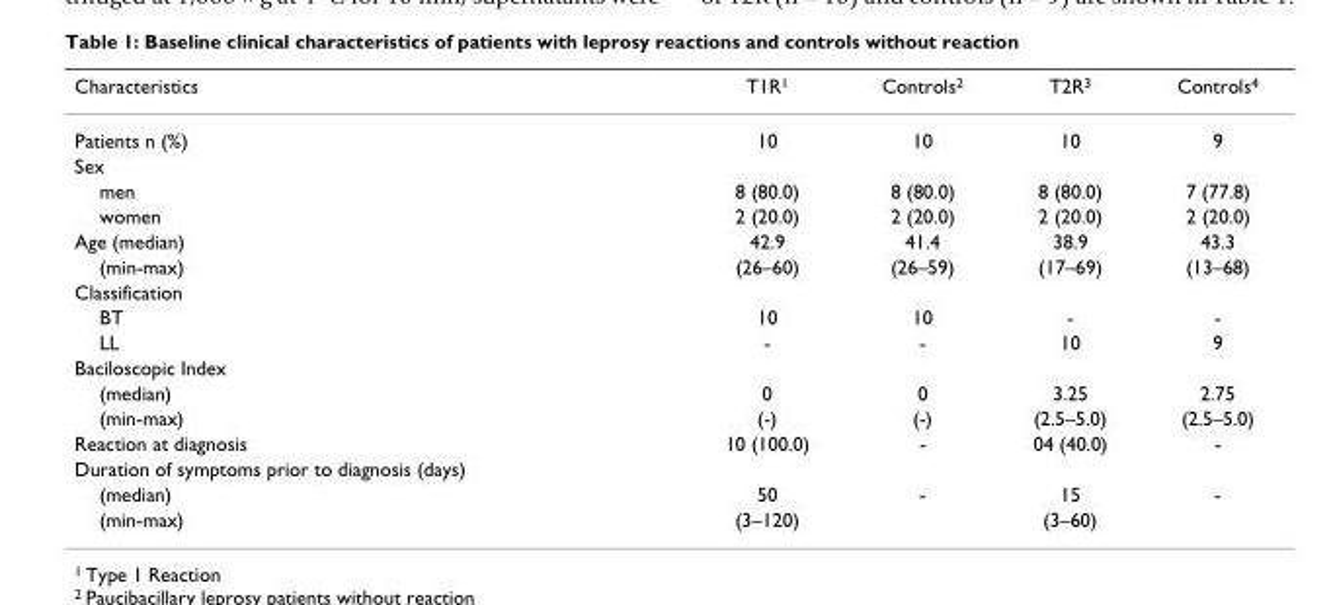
<table><thead><tr><td>Characteristics</td><td>T1R<sup>1</sup></td><td>Controls<sup>2</sup></td><td>T2R<sup>3</sup></td><td>Controls<sup>4</sup></td></tr></thead><tbody><tr><td>Patients n (%)</td><td>10</td><td>10</td><td>10</td><td>9</td></tr><tr><td colspan="5">Sex</td></tr><tr><td>men</td><td>8 (80.0)</td><td>8 (80.0)</td><td>8 (80.0)</td><td>7 (77.8)</td></tr><tr><td>women</td><td>2 (20.0)</td><td>2 (20.0)</td><td>2 (20.0)</td><td>2 (20.0)</td></tr><tr><td>Age (median)</td><td>42.9</td><td>41.4</td><td>38.9</td><td>43.3</td></tr><tr><td>(min-max)</td><td>(26–60)</td><td>(26–59)</td><td>(17–69)</td><td>(13–68)</td></tr><tr><td colspan="5">Classification</td></tr><tr><td>BT</td><td>10</td><td>10</td><td>-</td><td>-</td></tr><tr><td>LL</td><td>-</td><td>-</td><td>10</td><td>9</td></tr><tr><td colspan="5">Baciloscopic Index</td></tr><tr><td>(median)</td><td>0</td><td>0</td><td>3.25</td><td>2.75</td></tr><tr><td>(min-max)</td><td>(-)</td><td>(-)</td><td>(2.5–5.0)</td><td>(2.5–5.0)</td></tr><tr><td>Reaction at diagnosis</td><td>10 (100.0)</td><td>-</td><td>04 (40.0)</td><td>-</td></tr><tr><td colspan="5">Duration of symptoms prior to diagnosis (days)</td></tr><tr><td>(median)</td><td>50</td><td>-</td><td>15</td><td>-</td></tr><tr><td>(min-max)</td><td>(3–120)</td><td></td><td>(3–60)</td><td></td></tr></tbody></table>